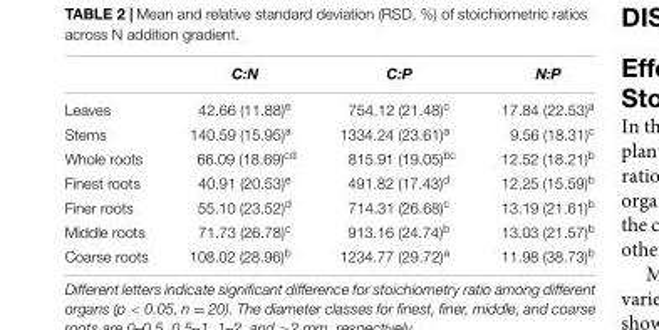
<table><thead><tr><td></td><td>C:N</td><td>C:P</td><td>N:P</td></tr></thead><tbody><tr><td>Leaves</td><td>42.66 (11.88)<sup>e</sup></td><td>754.12 (21.48)<sup>c</sup></td><td>17.84 (22.53)<sup>a</sup></td></tr><tr><td>Stems</td><td>140.59 (15.95)<sup>a</sup></td><td>1334.24 (23.61)<sup>a</sup></td><td>9.56 (18.31)<sup>c</sup></td></tr><tr><td>Whole roots</td><td>66.09 (18.69)<sup>cd</sup></td><td>815.91 (19.05)<sup>bc</sup></td><td>12.52 (18.21)<sup>b</sup></td></tr><tr><td>Finest roots</td><td>40.91 (20.53)<sup>e</sup></td><td>491.82 (17.43)<sup>d</sup></td><td>12.25 (15.59)<sup>b</sup></td></tr><tr><td>Finer roots</td><td>55.10 (23.52)<sup>d</sup></td><td>714.31 (26.68)<sup>c</sup></td><td>13.19 (21.61)<sup>b</sup></td></tr><tr><td>Middle roots</td><td>71.73 (26.78)<sup>c</sup></td><td>913.16 (24.74)<sup>b</sup></td><td>13.03 (21.57)<sup>b</sup></td></tr><tr><td>Coarse roots</td><td>108.02 (28.96)<sup>b</sup></td><td>1234.77 (29.72)<sup>a</sup></td><td>11.98 (38.73)<sup>b</sup></td></tr></tbody></table>